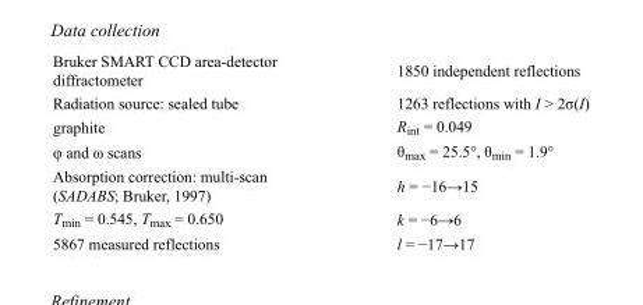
<table><tbody><tr><td>Bruker SMART CCD area-detector diffractometer</td><td>1850 independent reflections</td></tr><tr><td>Radiation source: sealed tube</td><td>1263 reflections with I &gt; 2σ(I)</td></tr><tr><td>graphite</td><td>R<sub>int</sub> = 0.049</td></tr><tr><td>φ and ω scans</td><td>θ<sub>max</sub> = 25.5°, θ<sub>min</sub> = 1.9°</td></tr><tr><td>Absorption correction: multi-scan (SADABS; Bruker, 1997)</td><td>h = −16→15</td></tr><tr><td>T<sub>min</sub> = 0.545, T<sub>max</sub> = 0.650</td><td>k = −6→6</td></tr><tr><td>5867 measured reflections</td><td>l = −17→17</td></tr></tbody></table>